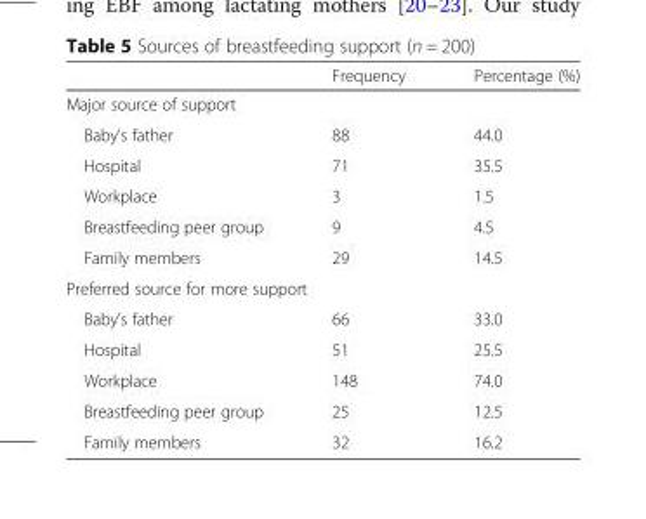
<table><thead><tr><td></td><td>Frequency</td><td>Percentage (%)</td></tr></thead><tbody><tr><td colspan="3">Major source of support</td></tr><tr><td>Baby’s father</td><td>88</td><td>44.0</td></tr><tr><td>Hospital</td><td>71</td><td>35.5</td></tr><tr><td>Workplace</td><td>3</td><td>1.5</td></tr><tr><td>Breastfeeding peer group</td><td>9</td><td>4.5</td></tr><tr><td>Family members</td><td>29</td><td>14.5</td></tr><tr><td colspan="3">Preferred source for more support</td></tr><tr><td>Baby’s father</td><td>66</td><td>33.0</td></tr><tr><td>Hospital</td><td>51</td><td>25.5</td></tr><tr><td>Workplace</td><td>148</td><td>74.0</td></tr><tr><td>Breastfeeding peer group</td><td>25</td><td>12.5</td></tr><tr><td>Family members</td><td>32</td><td>16.2</td></tr></tbody></table>